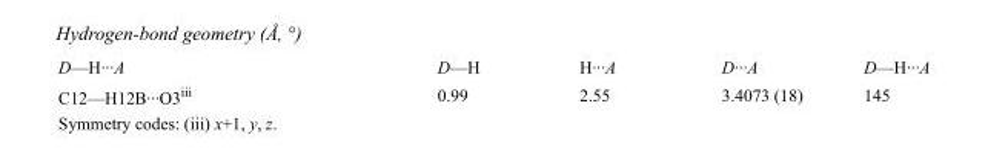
<table><tbody><tr><td>D—H···A</td><td>D—H</td><td>H···A</td><td>D···A</td><td>D—H···A</td></tr><tr><td>C12—H12B···O3<sup>iii</sup></td><td>0.99</td><td>2.55</td><td>3.4073 (18)</td><td>145</td></tr></tbody></table>